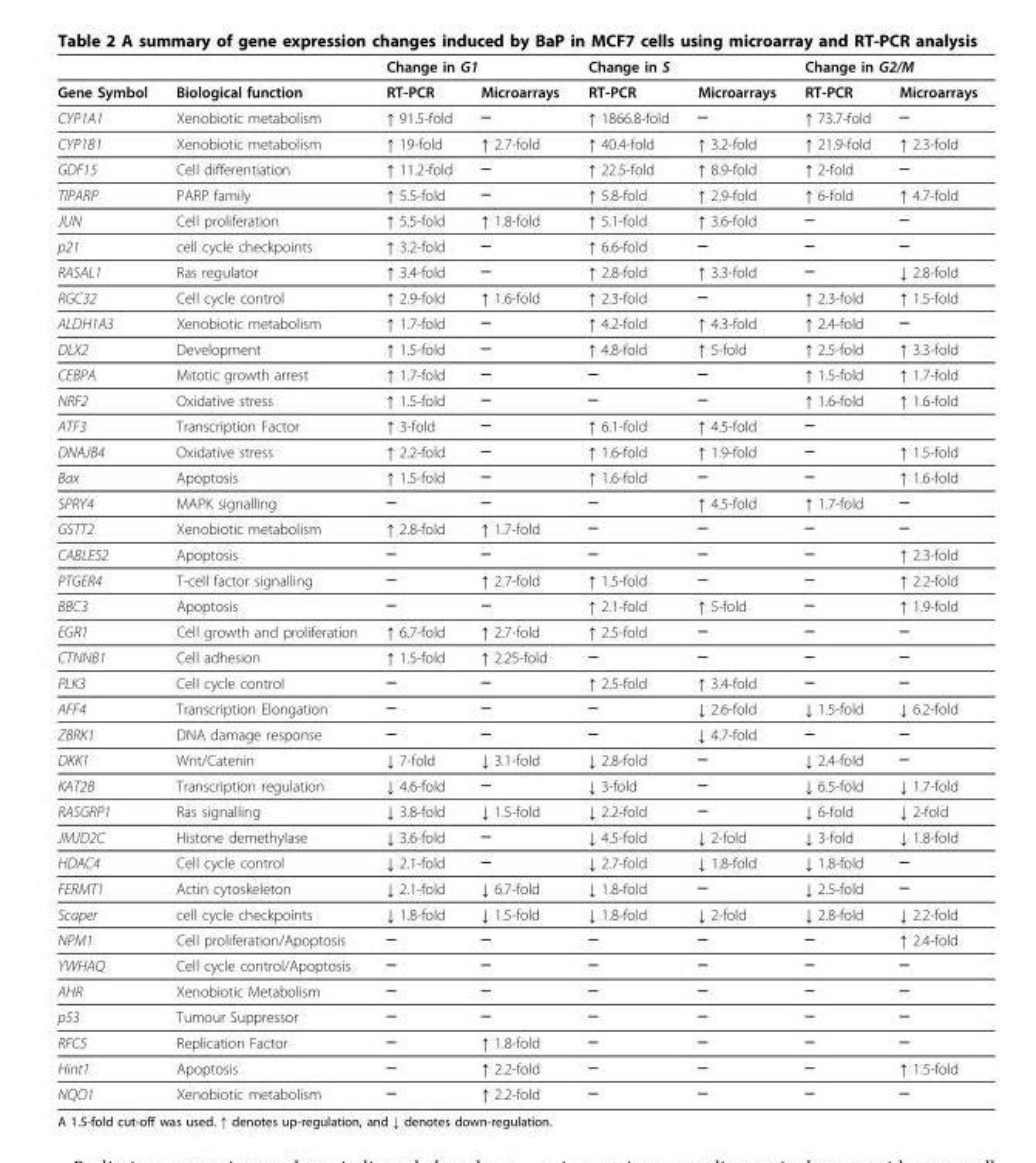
<table><thead><tr><td rowspan="2">Gene Symbol</td><td rowspan="2">Biological function</td><td colspan="2">Change in G1</td><td colspan="2">Change in S</td><td colspan="2">Change in G2/M</td></tr><tr><td>RT-PCR</td><td>Microarrays</td><td>RT-PCR</td><td>Microarrays</td><td>RT-PCR</td><td>Microarrays</td></tr></thead><tbody><tr><td>CYP1A1</td><td>Xenobiotic metabolism</td><td>↑ 91.5-fold</td><td>─</td><td>↑ 1866.8-fold</td><td>─</td><td>↑ 73.7-fold</td><td>─</td></tr><tr><td>CYP1B1</td><td>Xenobiotic metabolism</td><td>↑ 19-fold</td><td>↑ 2.7-fold</td><td>↑ 40.4-fold</td><td>↑ 3.2-fold</td><td>↑ 21.9-fold</td><td>↑ 2.3-fold</td></tr><tr><td>GDF15</td><td>Cell differentiation</td><td>↑ 11.2-fold</td><td>─</td><td>↑ 22.5-fold</td><td>↑ 8.9-fold</td><td>↑ 2-fold</td><td>─</td></tr><tr><td>TIPARP</td><td>PARP family</td><td>↑ 5.5-fold</td><td>─</td><td>↑ 5.8-fold</td><td>↑ 2.9-fold</td><td>↑ 6-fold</td><td>↑ 4.7-fold</td></tr><tr><td>JUN</td><td>Cell proliferation</td><td>↑ 5.5-fold</td><td>↑ 1.8-fold</td><td>↑ 5.1-fold</td><td>↑ 3.6-fold</td><td>─</td><td>─</td></tr><tr><td>p21</td><td>cell cycle checkpoints</td><td>↑ 3.2-fold</td><td>─</td><td>↑ 6.6-fold</td><td>─</td><td>─</td><td>─</td></tr><tr><td>RASAL1</td><td>Ras regulator</td><td>↑ 3.4-fold</td><td>─</td><td>↑ 2.8-fold</td><td>↑ 3.3-fold</td><td>─</td><td>↓ 2.8-fold</td></tr><tr><td>RGC32</td><td>Cell cycle control</td><td>↑ 2.9-fold</td><td>↑ 1.6-fold</td><td>↑ 2.3-fold</td><td>─</td><td>↑ 2.3-fold</td><td>↑ 1.5-fold</td></tr><tr><td>ALDH1A3</td><td>Xenobiotic metabolism</td><td>↑ 1.7-fold</td><td>─</td><td>↑ 4.2-fold</td><td>↑ 4.3-fold</td><td>↑ 2.4-fold</td><td>─</td></tr><tr><td>DLX2</td><td>Development</td><td>↑ 1.5-fold</td><td>─</td><td>↑ 4.8-fold</td><td>↑ 5-fold</td><td>↑ 2.5-fold</td><td>↑ 3.3-fold</td></tr><tr><td>CEBPA</td><td>Mitotic growth arrest</td><td>↑ 1.7-fold</td><td>─</td><td>─</td><td>─</td><td>↑ 1.5-fold</td><td>↑ 1.7-fold</td></tr><tr><td>NRF2</td><td>Oxidative stress</td><td>↑ 1.5-fold</td><td>─</td><td>─</td><td>─</td><td>↑ 1.6-fold</td><td>↑ 1.6-fold</td></tr><tr><td>ATF3</td><td>Transcription Factor</td><td>↑ 3-fold</td><td>─</td><td>↑ 6.1-fold</td><td>↑ 4.5-fold</td><td>─</td><td></td></tr><tr><td>DNAJB4</td><td>Oxidative stress</td><td>↑ 2.2-fold</td><td>─</td><td>↑ 1.6-fold</td><td>↑ 1.9-fold</td><td>─</td><td>↑ 1.5-fold</td></tr><tr><td>Bax</td><td>Apoptosis</td><td>↑ 1.5-fold</td><td>─</td><td>↑ 1.6-fold</td><td>─</td><td>─</td><td>↑ 1.6-fold</td></tr><tr><td>SPRY4</td><td>MAPK signalling</td><td>─</td><td>─</td><td>─</td><td>↑ 4.5-fold</td><td>↑ 1.7-fold</td><td>─</td></tr><tr><td>GSTT2</td><td>Xenobiotic metabolism</td><td>↑ 2.8-fold</td><td>↑ 1.7-fold</td><td>─</td><td>─</td><td>─</td><td>─</td></tr><tr><td>CABLES2</td><td>Apoptosis</td><td>─</td><td>─</td><td>─</td><td>─</td><td>─</td><td>↑ 2.3-fold</td></tr><tr><td>PTGER4</td><td>T-cell factor signalling</td><td>─</td><td>↑ 2.7-fold</td><td>↑ 1.5-fold</td><td>─</td><td>─</td><td>↑ 2.2-fold</td></tr><tr><td>BBC3</td><td>Apoptosis</td><td>─</td><td>─</td><td>↑ 2.1-fold</td><td>↑ 5-fold</td><td>─</td><td>↑ 1.9-fold</td></tr><tr><td>EGR1</td><td>Cell growth and proliferation</td><td>↑ 6.7-fold</td><td>↑ 2.7-fold</td><td>↑ 2.5-fold</td><td>─</td><td>─</td><td>─</td></tr><tr><td>CTNNB1</td><td>Cell adhesion</td><td>↑ 1.5-fold</td><td>↑ 2.25-fold</td><td>─</td><td>─</td><td>─</td><td>─</td></tr><tr><td>PLK3</td><td>Cell cycle control</td><td>─</td><td>─</td><td>↑ 2.5-fold</td><td>↑ 3.4-fold</td><td>─</td><td>─</td></tr><tr><td>AFF4</td><td>Transcription Elongation</td><td>─</td><td>─</td><td>─</td><td>↓ 2.6-fold</td><td>↓ 1.5-fold</td><td>↓ 6.2-fold</td></tr><tr><td>ZBRK1</td><td>DNA damage response</td><td>─</td><td>─</td><td>─</td><td>↓ 4.7-fold</td><td>─</td><td>─</td></tr><tr><td>DKK1</td><td>Wnt/Catenin</td><td>↓ 7-fold</td><td>↓ 3.1-fold</td><td>↓ 2.8-fold</td><td>─</td><td>↓ 2.4-fold</td><td>─</td></tr><tr><td>KAT2B</td><td>Transcription regulation</td><td>↓ 4.6-fold</td><td>─</td><td>↓ 3-fold</td><td>─</td><td>↓ 6.5-fold</td><td>↓ 1.7-fold</td></tr><tr><td>RASGRP1</td><td>Ras signalling</td><td>↓ 3.8-fold</td><td>↓ 1.5-fold</td><td>↓ 2.2-fold</td><td>─</td><td>↓ 6-fold</td><td>↓ 2-fold</td></tr><tr><td>JMJD2C</td><td>Histone demethylase</td><td>↓ 3.6-fold</td><td>─</td><td>↓ 4.5-fold</td><td>↓ 2-fold</td><td>↓ 3-fold</td><td>↓ 1.8-fold</td></tr><tr><td>HDAC4</td><td>Cell cycle control</td><td>↓ 2.1-fold</td><td>─</td><td>↓ 2.7-fold</td><td>↓ 1.8-fold</td><td>↓ 1.8-fold</td><td>─</td></tr><tr><td>FERMT1</td><td>Actin cytoskeleton</td><td>↓ 2.1-fold</td><td>↓ 6.7-fold</td><td>↓ 1.8-fold</td><td>─</td><td>↓ 2.5-fold</td><td>─</td></tr><tr><td>Scaper</td><td>cell cycle checkpoints</td><td>↓ 1.8-fold</td><td>↓ 1.5-fold</td><td>↓ 1.8-fold</td><td>↓ 2-fold</td><td>↓ 2.8-fold</td><td>↓ 2.2-fold</td></tr><tr><td>NPM1</td><td>Cell proliferation/Apoptosis</td><td>─</td><td>─</td><td>─</td><td>─</td><td>─</td><td>↑ 2.4-fold</td></tr><tr><td>YWHAQ</td><td>Cell cycle control/Apoptosis</td><td>─</td><td>─</td><td>─</td><td>─</td><td>─</td><td>─</td></tr><tr><td>AHR</td><td>Xenobiotic Metabolism</td><td>─</td><td>─</td><td>─</td><td>─</td><td>─</td><td>─</td></tr><tr><td>p53</td><td>Tumour Suppressor</td><td>─</td><td>─</td><td>─</td><td>─</td><td>─</td><td>─</td></tr><tr><td>RFC5</td><td>Replication Factor</td><td>─</td><td>↑ 1.8-fold</td><td>─</td><td>─</td><td>─</td><td>─</td></tr><tr><td>Hint1</td><td>Apoptosis</td><td>─</td><td>↑ 2.2-fold</td><td>─</td><td>─</td><td>─</td><td>↑ 1.5-fold</td></tr><tr><td>NQO1</td><td>Xenobiotic metabolism</td><td>─</td><td>↑ 2.2-fold</td><td>─</td><td>─</td><td>─</td><td>─</td></tr></tbody></table>